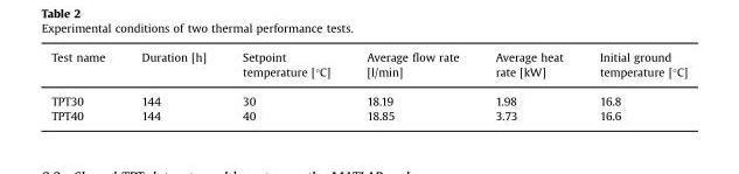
<table><thead><tr><td>Test name</td><td>Duration [h]</td><td>Setpoint temperature [°C]</td><td>Average flow rate [l/min]</td><td>Average heat rate [kW]</td><td>Initial ground temperature [°C]</td></tr></thead><tbody><tr><td>TPT30</td><td>144</td><td>30</td><td>18.19</td><td>1.98</td><td>16.8</td></tr><tr><td>TPT40</td><td>144</td><td>40</td><td>18.85</td><td>3.73</td><td>16.6</td></tr></tbody></table>